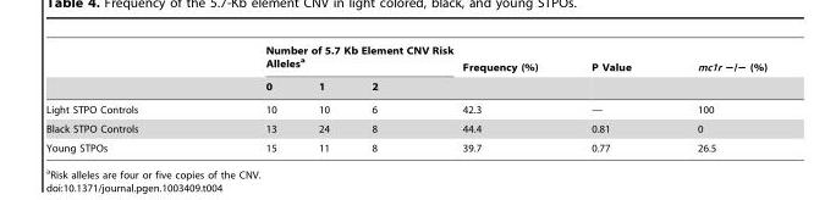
<table><thead><tr><td rowspan="2"></td><td colspan="3">Number of 5.7 Kb Element CNV Risk Alleles<sup>a</sup></td><td rowspan="2">Frequency (%)</td><td rowspan="2">P Value</td><td rowspan="2">mc1r −/− (%)</td></tr><tr><td>0</td><td>1</td><td>2</td></tr></thead><tbody><tr><td>Light STPO Controls</td><td>10</td><td>10</td><td>6</td><td>42.3</td><td>—</td><td>100</td></tr><tr><td>Black STPO Controls</td><td>13</td><td>24</td><td>8</td><td>44.4</td><td>0.81</td><td>0</td></tr><tr><td>Young STPOs</td><td>15</td><td>11</td><td>8</td><td>39.7</td><td>0.77</td><td>26.5</td></tr></tbody></table>